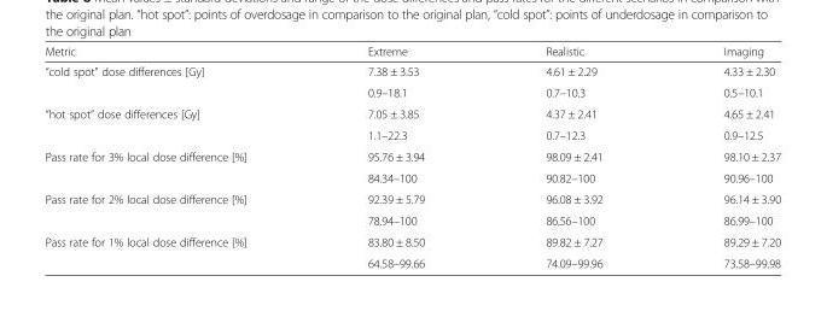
<table><thead><tr><td>Metric</td><td>Extreme</td><td>Realistic</td><td>Imaging</td></tr></thead><tbody><tr><td rowspan="2">“cold spot” dose differences [Gy]</td><td>7.38 ± 3.53</td><td>4.61 ± 2.29</td><td>4.33 ± 2.30</td></tr><tr><td>0.9–18.1</td><td>0.7–10.3</td><td>0.5–10.1</td></tr><tr><td rowspan="2">“hot spot” dose differences [Gy]</td><td>7.05 ± 3.85</td><td>4.37 ± 2.41</td><td>4.65 ± 2.41</td></tr><tr><td>1.1–22.3</td><td>0.7–12.3</td><td>0.9–12.5</td></tr><tr><td rowspan="2">Pass rate for 3% local dose difference [%]</td><td>95.76 ± 3.94</td><td>98.09 ± 2.41</td><td>98.10 ± 2.37</td></tr><tr><td>84.34–100</td><td>90.82–100</td><td>90.96–100</td></tr><tr><td rowspan="2">Pass rate for 2% local dose difference [%]</td><td>92.39 ± 5.79</td><td>96.08 ± 3.92</td><td>96.14 ± 3.90</td></tr><tr><td>78.94–100</td><td>86.56–100</td><td>86.99–100</td></tr><tr><td rowspan="2">Pass rate for 1% local dose difference [%]</td><td>83.80 ± 8.50</td><td>89.82 ± 7.27</td><td>89.29 ± 7.20</td></tr><tr><td>64.58–99.66</td><td>74.09–99.96</td><td>73.58–99.98</td></tr></tbody></table>